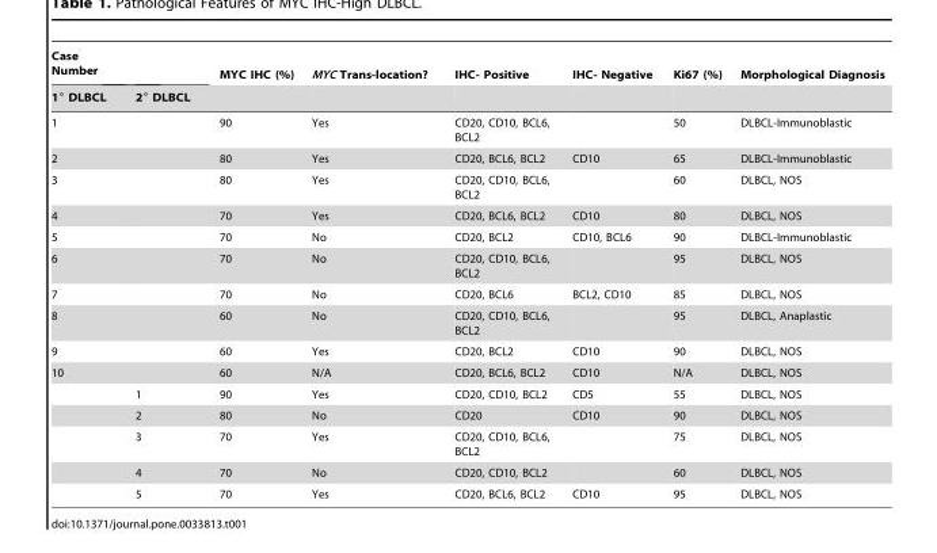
<table><thead><tr><td rowspan="2">Case Number 1° DLBCL</td><td rowspan="2">2° DLBCL</td><td rowspan="2">MYC IHC (%)</td><td rowspan="2">MYC Trans-location?</td><td rowspan="2">IHC- Positive</td><td rowspan="2">IHC- Negative</td><td rowspan="2">Ki67 (%)</td><td rowspan="2">Morphological Diagnosis</td></tr><tr></tr></thead><tbody><tr><td>1</td><td></td><td>90</td><td>Yes</td><td>CD20, CD10, BCL6, BCL2</td><td></td><td>50</td><td>DLBCL-Immunoblastic</td></tr><tr><td>2</td><td></td><td>80</td><td>Yes</td><td>CD20, BCL6, BCL2</td><td>CD10</td><td>65</td><td>DLBCL-Immunoblastic</td></tr><tr><td>3</td><td></td><td>80</td><td>Yes</td><td>CD20, CD10, BCL6, BCL2</td><td></td><td>60</td><td>DLBCL, NOS</td></tr><tr><td>4</td><td></td><td>70</td><td>Yes</td><td>CD20, BCL6, BCL2</td><td>CD10</td><td>80</td><td>DLBCL, NOS</td></tr><tr><td>5</td><td></td><td>70</td><td>No</td><td>CD20, BCL2</td><td>CD10, BCL6</td><td>90</td><td>DLBCL-Immunoblastic</td></tr><tr><td>6</td><td></td><td>70</td><td>No</td><td>CD20, CD10, BCL6, BCL2</td><td></td><td>95</td><td>DLBCL, NOS</td></tr><tr><td>7</td><td></td><td>70</td><td>No</td><td>CD20, BCL6</td><td>BCL2, CD10</td><td>85</td><td>DLBCL, NOS</td></tr><tr><td>8</td><td></td><td>60</td><td>No</td><td>CD20, CD10, BCL6, BCL2</td><td></td><td>95</td><td>DLBCL, Anaplastic</td></tr><tr><td>9</td><td></td><td>60</td><td>Yes</td><td>CD20, BCL2</td><td>CD10</td><td>90</td><td>DLBCL, NOS</td></tr><tr><td rowspan="6">10</td><td></td><td>60</td><td>N/A</td><td>CD20, BCL6, BCL2</td><td>CD10</td><td>N/A</td><td>DLBCL, NOS</td></tr><tr><td>1</td><td>90</td><td>Yes</td><td>CD20, CD10, BCL2</td><td>CD5</td><td>55</td><td>DLBCL, NOS</td></tr><tr><td>2</td><td>80</td><td>No</td><td>CD20</td><td>CD10</td><td>90</td><td>DLBCL, NOS</td></tr><tr><td>3</td><td>70</td><td>Yes</td><td>CD20, CD10, BCL6, BCL2</td><td></td><td>75</td><td>DLBCL, NOS</td></tr><tr><td>4</td><td>70</td><td>No</td><td>CD20, CD10, BCL2</td><td></td><td>60</td><td>DLBCL, NOS</td></tr><tr><td>5</td><td>70</td><td>Yes</td><td>CD20, BCL6, BCL2</td><td>CD10</td><td>95</td><td>DLBCL, NOS</td></tr></tbody></table>